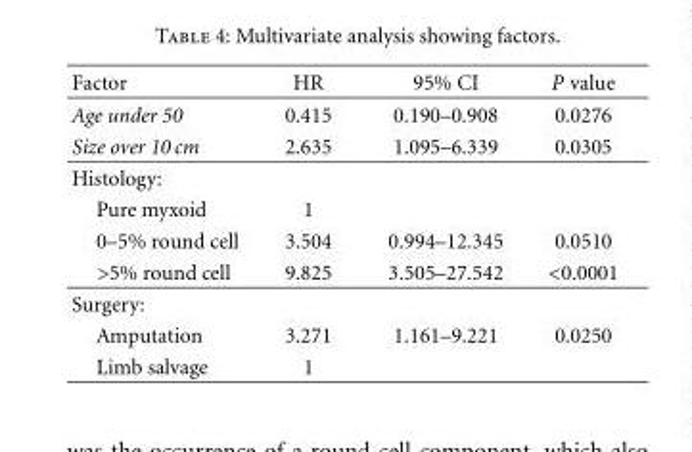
<table><thead><tr><td>Factor</td><td>HR</td><td>95% CI</td><td>P value</td></tr></thead><tbody><tr><td>Age under 50</td><td>0.415</td><td>0.190–0.908</td><td>0.0276</td></tr><tr><td>Size over 10 cm</td><td>2.635</td><td>1.095–6.339</td><td>0.0305</td></tr><tr><td colspan="4">Histology:</td></tr><tr><td>Pure myxoid</td><td>1</td><td></td><td></td></tr><tr><td>0–5% round cell</td><td>3.504</td><td>0.994–12.345</td><td>0.0510</td></tr><tr><td>&gt;5% round cell</td><td>9.825</td><td>3.505–27.542</td><td>&lt;0.0001</td></tr><tr><td colspan="4">Surgery:</td></tr><tr><td>Amputation</td><td>3.271</td><td>1.161–9.221</td><td>0.0250</td></tr><tr><td>Limb salvage</td><td>1</td><td></td><td></td></tr></tbody></table>